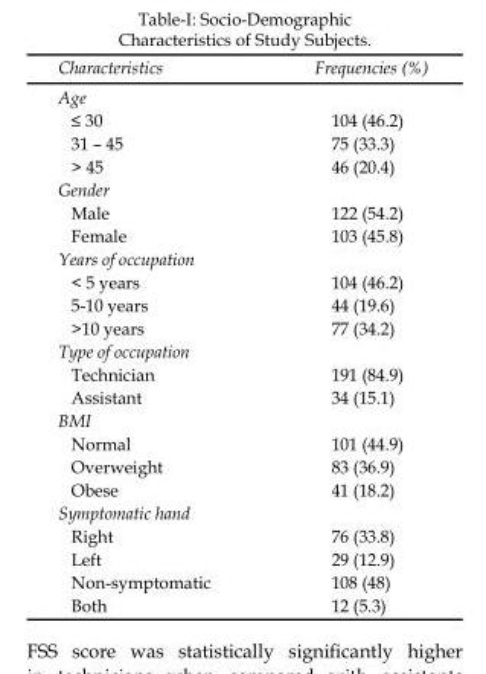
<table><thead><tr><td>Characteristics</td><td>Frequencies (%)</td></tr></thead><tbody><tr><td colspan="2">Age</td></tr><tr><td>≤ 30</td><td>104 (46.2)</td></tr><tr><td>31 – 45</td><td>75 (33.3)</td></tr><tr><td>&gt; 45</td><td>46 (20.4)</td></tr><tr><td colspan="2">Gender</td></tr><tr><td>Male</td><td>122 (54.2)</td></tr><tr><td>Female</td><td>103 (45.8)</td></tr><tr><td colspan="2">Years of occupation</td></tr><tr><td>&lt; 5 years</td><td>104 (46.2)</td></tr><tr><td>5-10 years</td><td>44 (19.6)</td></tr><tr><td>&gt;10 years</td><td>77 (34.2)</td></tr><tr><td colspan="2">Type of occupation</td></tr><tr><td>Technician</td><td>191 (84.9)</td></tr><tr><td>Assistant</td><td>34 (15.1)</td></tr><tr><td colspan="2">BMI</td></tr><tr><td>Normal</td><td>101 (44.9)</td></tr><tr><td>Overweight</td><td>83 (36.9)</td></tr><tr><td>Obese</td><td>41 (18.2)</td></tr><tr><td colspan="2">Symptomatic hand</td></tr><tr><td>Right</td><td>76 (33.8)</td></tr><tr><td>Left</td><td>29 (12.9)</td></tr><tr><td>Non-symptomatic</td><td>108 (48)</td></tr><tr><td>Both</td><td>12 (5.3)</td></tr></tbody></table>